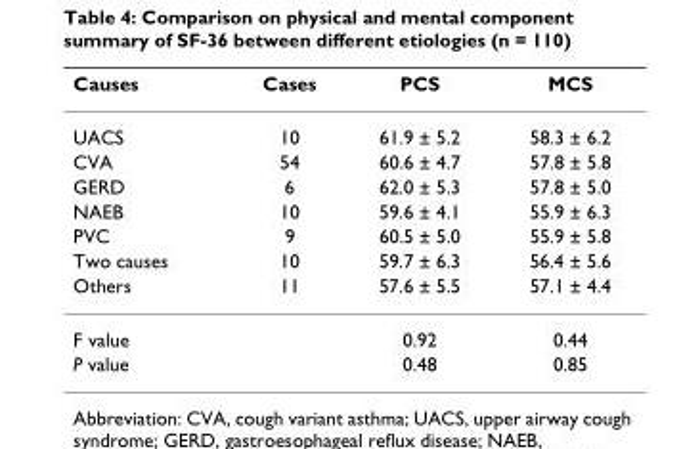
<table><thead><tr><td>Causes</td><td>Cases</td><td>PCS</td><td>MCS</td></tr></thead><tbody><tr><td>UACS</td><td>10</td><td>61.9 ± 5.2</td><td>58.3 ± 6.2</td></tr><tr><td>CVA</td><td>54</td><td>60.6 ± 4.7</td><td>57.8 ± 5.8</td></tr><tr><td>GERD</td><td>6</td><td>62.0 ± 5.3</td><td>57.8 ± 5.0</td></tr><tr><td>NAEB</td><td>10</td><td>59.6 ± 4.1</td><td>55.9 ± 6.3</td></tr><tr><td>PVC</td><td>9</td><td>60.5 ± 5.0</td><td>55.9 ± 5.8</td></tr><tr><td>Two causes</td><td>10</td><td>59.7 ± 6.3</td><td>56.4 ± 5.6</td></tr><tr><td>Others</td><td>11</td><td>57.6 ± 5.5</td><td>57.1 ± 4.4</td></tr><tr><td>F value</td><td></td><td>0.92</td><td>0.44</td></tr><tr><td>P value</td><td></td><td>0.48</td><td>0.85</td></tr></tbody></table>